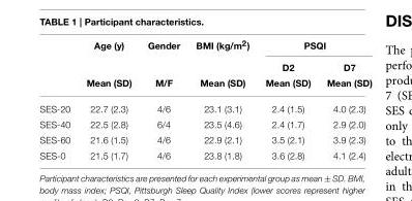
<table><thead><tr><td rowspan="3"></td><td rowspan="3">Age (y) Mean (SD)</td><td rowspan="3">Gender M/F</td><td rowspan="3">BMI (kg/m<sup>2</sup>) Mean (SD)</td><td colspan="2">PSQI</td></tr><tr><td rowspan="2">D2 Mean (SD)</td><td rowspan="2">D7 Mean (SD)</td></tr><tr></tr></thead><tbody><tr><td>SES-20</td><td>22.7 (2.3)</td><td>4/6</td><td>23.1 (3.1)</td><td>2.4 (1.5)</td><td>4.0 (2.3)</td></tr><tr><td>SES-40</td><td>22.5 (2.8)</td><td>6/4</td><td>23.5 (4.6)</td><td>2.4 (1.7)</td><td>2.9 (2.0)</td></tr><tr><td>SES-60</td><td>21.6 (1.5)</td><td>4/6</td><td>22.9 (2.1)</td><td>3.5 (2.1)</td><td>3.9 (2.3)</td></tr><tr><td>SES-0</td><td>21.5 (1.7)</td><td>4/6</td><td>23.8 (1.8)</td><td>3.6 (2.8)</td><td>4.1 (2.4)</td></tr></tbody></table>